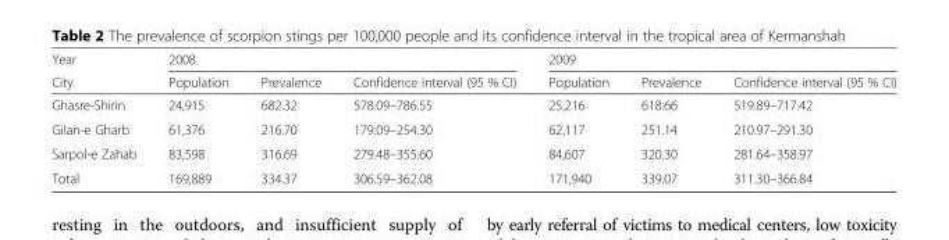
<table><thead><tr><td rowspan="2">Year City</td><td colspan="3">2008</td><td colspan="3">2009</td></tr><tr><td>Population</td><td>Prevalence</td><td>Confidence interval (95 % CI)</td><td>Population</td><td>Prevalence</td><td>Confidence interval (95 % CI)</td></tr></thead><tbody><tr><td>Ghasre-Shirin</td><td>24,915</td><td>682.32</td><td>578.09–786.55</td><td>25,216</td><td>618.66</td><td>519.89–717.42</td></tr><tr><td>Gilan-e Gharb</td><td>61,376</td><td>216.70</td><td>179.09–254.30</td><td>62,117</td><td>251.14</td><td>210.97–291.30</td></tr><tr><td>Sarpol-e Zahab</td><td>83,598</td><td>316.69</td><td>279.48–355.60</td><td>84,607</td><td>320.30</td><td>281.64–358.97</td></tr><tr><td>Total</td><td>169,889</td><td>334.37</td><td>306.59–362.08</td><td>171,940</td><td>339.07</td><td>311.30–366.84</td></tr></tbody></table>